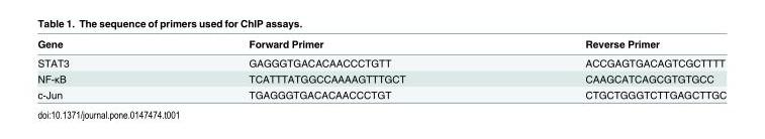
<table><thead><tr><td>Gene</td><td>Forward Primer</td><td>Reverse Primer</td></tr></thead><tbody><tr><td>STAT3</td><td>GAGGGTGACACAACCCTGTT</td><td>ACCGAGTGACAGTCGCTTTT</td></tr><tr><td>NF-κB</td><td>TCATTTATGGCCAAAAGTTTGCT</td><td>CAAGCATCAGCGTGTGCC</td></tr><tr><td>c-Jun</td><td>TGAGGGTGACACAACCCTGT</td><td>CTGCTGGGTCTTGAGCTTGC</td></tr></tbody></table>